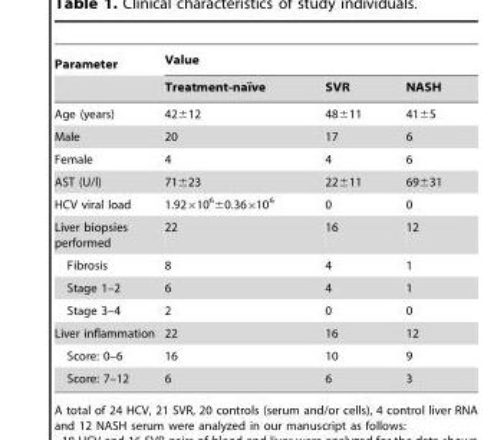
<table><thead><tr><td rowspan="2">Parameter</td><td colspan="3">Value</td></tr><tr><td>Treatment-naı¨ve</td><td>SVR</td><td>NASH</td></tr></thead><tbody><tr><td>Age (years)</td><td>42±12</td><td>48±11</td><td>41±5</td></tr><tr><td>Male</td><td>20</td><td>17</td><td>6</td></tr><tr><td>Female</td><td>4</td><td>4</td><td>6</td></tr><tr><td>AST (U/l)</td><td>71±23</td><td>22±11</td><td>69±31</td></tr><tr><td>HCV viral load</td><td>1.92×10<sup>6</sup>±0.36×10<sup>6</sup></td><td>0</td><td>0</td></tr><tr><td>Liver biopsies performed</td><td>22</td><td>16</td><td>12</td></tr><tr><td>Fibrosis</td><td>8</td><td>4</td><td>1</td></tr><tr><td>Stage 1–2</td><td>6</td><td>4</td><td>1</td></tr><tr><td>Stage 3–4</td><td>2</td><td>0</td><td>0</td></tr><tr><td>Liver inflammation</td><td>22</td><td>16</td><td>12</td></tr><tr><td>Score: 0–6</td><td>16</td><td>10</td><td>9</td></tr><tr><td>Score: 7–12</td><td>6</td><td>6</td><td>3</td></tr></tbody></table>